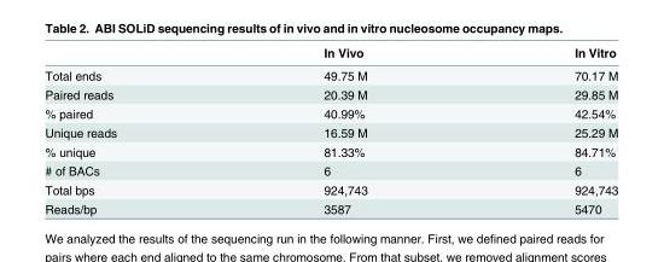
<table><thead><tr><td></td><td>In Vivo</td><td>In Vitro</td></tr></thead><tbody><tr><td>Total ends</td><td>49.75 M</td><td>70.17 M</td></tr><tr><td>Paired reads</td><td>20.39 M</td><td>29.85 M</td></tr><tr><td>% paired</td><td>40.99%</td><td>42.54%</td></tr><tr><td>Unique reads</td><td>16.59 M</td><td>25.29 M</td></tr><tr><td>% unique</td><td>81.33%</td><td>84.71%</td></tr><tr><td># of BACs</td><td>6</td><td>6</td></tr><tr><td>Total bps</td><td>924,743</td><td>924,743</td></tr><tr><td>Reads/bp</td><td>3587</td><td>5470</td></tr></tbody></table>